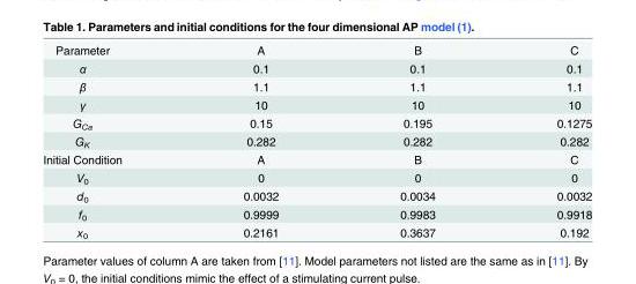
<table><tbody><tr><td>Parameter</td><td>A</td><td>B</td><td>C</td></tr><tr><td>α</td><td>0.1</td><td>0.1</td><td>0.1</td></tr><tr><td>β</td><td>1.1</td><td>1.1</td><td>1.1</td></tr><tr><td>γ</td><td>10</td><td>10</td><td>10</td></tr><tr><td>G<sub>Ca</sub></td><td>0.15</td><td>0.195</td><td>0.1275</td></tr><tr><td>G<sub>K</sub></td><td>0.282</td><td>0.282</td><td>0.282</td></tr><tr><td>Initial Condition</td><td>A</td><td>B</td><td>C</td></tr><tr><td>V<sub>0</sub></td><td>0</td><td>0</td><td>0</td></tr><tr><td>d<sub>0</sub></td><td>0.0032</td><td>0.0034</td><td>0.0032</td></tr><tr><td>f<sub>0</sub></td><td>0.9999</td><td>0.9983</td><td>0.9918</td></tr><tr><td>x<sub>0</sub></td><td>0.2161</td><td>0.3637</td><td>0.192</td></tr></tbody></table>